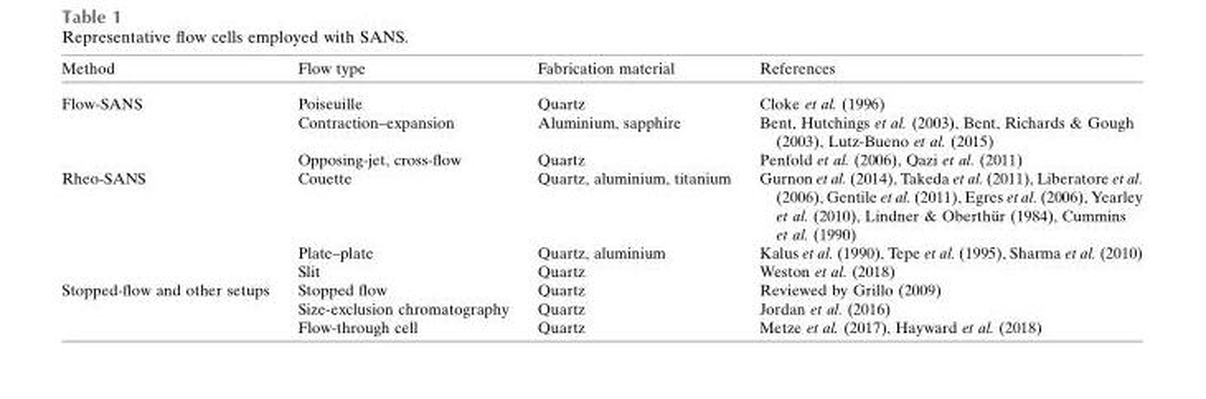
<table><thead><tr><td>Method</td><td>Flow type</td><td>Fabrication material</td><td>References</td></tr></thead><tbody><tr><td rowspan="3">Flow-SANS</td><td>Poiseuille</td><td>Quartz</td><td>Cloke et al. (1996)</td></tr><tr><td>Contraction–expansion</td><td>Aluminium, sapphire</td><td>Bent, Hutchings et al. (2003), Bent, Richards &amp; Gough (2003), Lutz-Bueno et al. (2015)</td></tr><tr><td>Opposing-jet, cross-flow</td><td>Quartz</td><td>Penfold et al. (2006), Qazi et al. (2011)</td></tr><tr><td rowspan="3">Rheo-SANS</td><td>Couette</td><td>Quartz, aluminium, titanium</td><td>Gurnon et al. (2014), Takeda et al. (2011), Liberatore et al. (2006), Gentile et al. (2011), Egres et al. (2006), Yearley et al. (2010), Lindner &amp; Oberthu¨r (1984), Cummins et al. (1990)</td></tr><tr><td>Plate–plate</td><td>Quartz, aluminium</td><td>Kalus et al. (1990), Tepe et al. (1995), Sharma et al. (2010)</td></tr><tr><td>Slit</td><td>Quartz</td><td>Weston et al. (2018)</td></tr><tr><td rowspan="3">Stopped-flow and other setups</td><td>Stopped flow</td><td>Quartz</td><td>Reviewed by Grillo (2009)</td></tr><tr><td>Size-exclusion chromatography</td><td>Quartz</td><td>Jordan et al. (2016)</td></tr><tr><td>Flow-through cell</td><td>Quartz</td><td>Metze et al. (2017), Hayward et al. (2018)</td></tr></tbody></table>